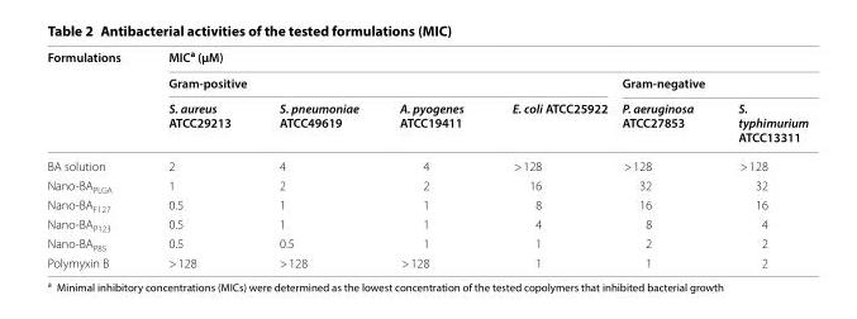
<table><thead><tr><td rowspan="3">Formulations</td><td colspan="6">MICa (µM)</td></tr><tr><td colspan="4">Gram‑positive</td><td colspan="2">Gram‑negative</td></tr><tr><td>S. aureus ATCC29213</td><td>S. pneumoniae ATCC49619</td><td>A. pyogenes ATCC19411</td><td>E. coli ATCC25922</td><td>P. aeruginosa ATCC27853</td><td>S. typhimurium ATCC13311</td></tr></thead><tbody><tr><td>BA solution</td><td>2</td><td>4</td><td>4</td><td>&gt; 128</td><td>&gt; 128</td><td>&gt; 128</td></tr><tr><td>Nano-BAPLGA</td><td>1</td><td>2</td><td>2</td><td>16</td><td>32</td><td>32</td></tr><tr><td>Nano-BAF127</td><td>0.5</td><td>1</td><td>1</td><td>8</td><td>16</td><td>16</td></tr><tr><td>Nano-BAP123</td><td>0.5</td><td>1</td><td>1</td><td>4</td><td>8</td><td>4</td></tr><tr><td>Nano-BAP85</td><td>0.5</td><td>0.5</td><td>1</td><td>1</td><td>2</td><td>2</td></tr><tr><td>Polymyxin B</td><td>&gt; 128</td><td>&gt; 128</td><td>&gt; 128</td><td>1</td><td>1</td><td>2</td></tr></tbody></table>